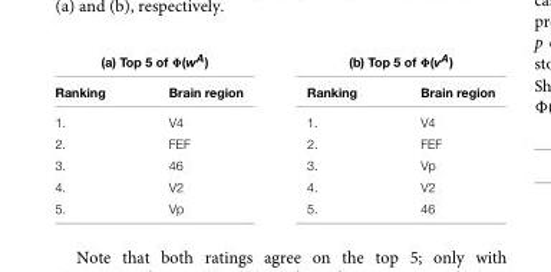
<table><thead><tr><td colspan="2">(a) Top 5 of Φ(w<sup>A</sup>)</td><td colspan="2">(b) Top 5 of Φ(v<sup>A</sup>)</td></tr><tr><td>Ranking</td><td>Brain region</td><td>Ranking</td><td>Brain region</td></tr></thead><tbody><tr><td>1.</td><td>V4</td><td>1.</td><td>V4</td></tr><tr><td>2.</td><td>FEF</td><td>2.</td><td>FEF</td></tr><tr><td>3.</td><td>46</td><td>3.</td><td>Vp</td></tr><tr><td>4.</td><td>V2</td><td>4.</td><td>V2</td></tr><tr><td>5.</td><td>Vp</td><td>5.</td><td>46</td></tr></tbody></table>